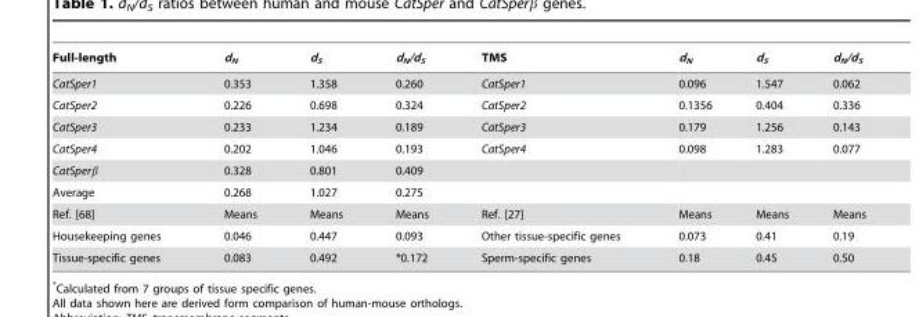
<table><thead><tr><td>Full-length</td><td>d<sub>N</sub></td><td>d<sub>S</sub></td><td>d<sub>N</sub>/d<sub>S</sub></td><td>TMS</td><td>d<sub>N</sub></td><td>d<sub>S</sub></td><td>d<sub>N</sub>/d<sub>S</sub></td></tr></thead><tbody><tr><td>CatSper1</td><td>0.353</td><td>1.358</td><td>0.260</td><td>CatSper1</td><td>0.096</td><td>1.547</td><td>0.062</td></tr><tr><td>CatSper2</td><td>0.226</td><td>0.698</td><td>0.324</td><td>CatSper2</td><td>0.1356</td><td>0.404</td><td>0.336</td></tr><tr><td>CatSper3</td><td>0.233</td><td>1.234</td><td>0.189</td><td>CatSper3</td><td>0.179</td><td>1.256</td><td>0.143</td></tr><tr><td>CatSper4</td><td>0.202</td><td>1.046</td><td>0.193</td><td>CatSper4</td><td>0.098</td><td>1.283</td><td>0.077</td></tr><tr><td>CatSperβ</td><td>0.328</td><td>0.801</td><td>0.409</td><td></td><td></td><td></td><td></td></tr><tr><td>Average</td><td>0.268</td><td>1.027</td><td>0.275</td><td></td><td></td><td></td><td></td></tr><tr><td>Ref. [68]</td><td>Means</td><td>Means</td><td>Means</td><td>Ref. [27]</td><td>Means</td><td>Means</td><td>Means</td></tr><tr><td>Housekeeping genes</td><td>0.046</td><td>0.447</td><td>0.093</td><td>Other tissue-specific genes</td><td>0.073</td><td>0.41</td><td>0.19</td></tr><tr><td>Tissue-specific genes</td><td>0.083</td><td>0.492</td><td>*0.172</td><td>Sperm-specific genes</td><td>0.18</td><td>0.45</td><td>0.50</td></tr></tbody></table>